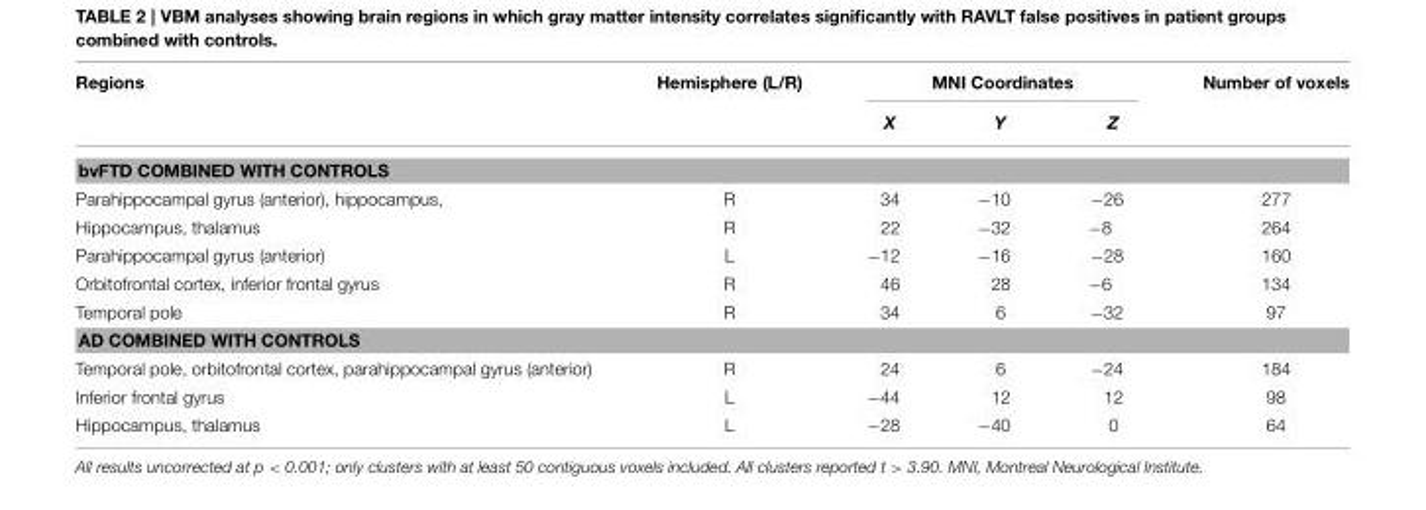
<table><thead><tr><td rowspan="2">Regions</td><td rowspan="2">Hemisphere (L/R)</td><td colspan="3">MNI Coordinates</td><td rowspan="2">Number of voxels</td></tr><tr><td>X</td><td>Y</td><td>Z</td></tr></thead><tbody><tr><td colspan="6">bvFTD COMBINED WITH CONTROLS</td></tr><tr><td>Parahippocampal gyrus (anterior), hippocampus,</td><td>R</td><td>34</td><td>−10</td><td>−26</td><td>277</td></tr><tr><td>Hippocampus, thalamus</td><td>R</td><td>22</td><td>−32</td><td>−8</td><td>264</td></tr><tr><td>Parahippocampal gyrus (anterior)</td><td>L</td><td>−12</td><td>−16</td><td>−28</td><td>160</td></tr><tr><td>Orbitofrontal cortex, inferior frontal gyrus</td><td>R</td><td>46</td><td>28</td><td>−6</td><td>134</td></tr><tr><td>Temporal pole</td><td>R</td><td>34</td><td>6</td><td>−32</td><td>97</td></tr><tr><td colspan="6">AD COMBINED WITH CONTROLS</td></tr><tr><td>Temporal pole, orbitofrontal cortex, parahippocampal gyrus (anterior)</td><td>R</td><td>24</td><td>6</td><td>−24</td><td>184</td></tr><tr><td>Inferior frontal gyrus</td><td>L</td><td>−44</td><td>12</td><td>12</td><td>98</td></tr><tr><td>Hippocampus, thalamus</td><td>L</td><td>−28</td><td>−40</td><td>0</td><td>64</td></tr></tbody></table>